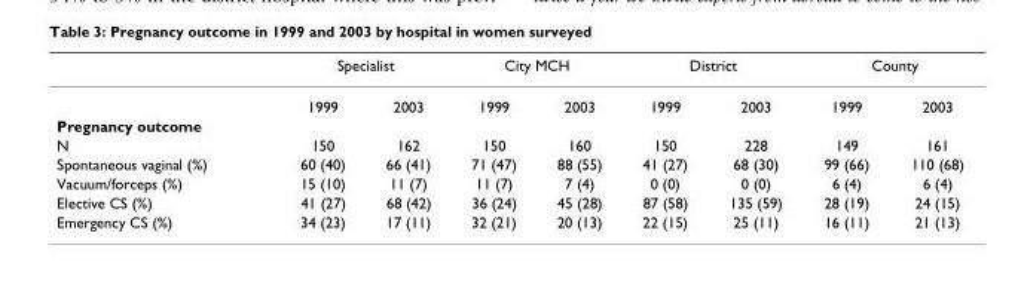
<table><thead><tr><td rowspan="2"></td><td colspan="2">Specialist</td><td colspan="2">City MCH</td><td colspan="2">District</td><td colspan="2">County</td></tr><tr><td>1999</td><td>2003</td><td>1999</td><td>2003</td><td>1999</td><td>2003</td><td>1999</td><td>2003</td></tr></thead><tbody><tr><td colspan="9">Pregnancy outcome</td></tr><tr><td>N</td><td>150</td><td>162</td><td>150</td><td>160</td><td>150</td><td>228</td><td>149</td><td>161</td></tr><tr><td>Spontaneous vaginal (%)</td><td>60 (40)</td><td>66 (41)</td><td>71 (47)</td><td>88 (55)</td><td>41 (27)</td><td>68 (30)</td><td>99 (66)</td><td>110 (68)</td></tr><tr><td>Vacuum/forceps (%)</td><td>15 (10)</td><td>11 (7)</td><td>11 (7)</td><td>7 (4)</td><td>0 (0)</td><td>0 (0)</td><td>6 (4)</td><td>6 (4)</td></tr><tr><td>Elective CS (%)</td><td>41 (27)</td><td>68 (42)</td><td>36 (24)</td><td>45 (28)</td><td>87 (58)</td><td>135 (59)</td><td>28 (19)</td><td>24 (15)</td></tr><tr><td>Emergency CS (%)</td><td>34 (23)</td><td>17 (11)</td><td>32 (21)</td><td>20 (13)</td><td>22 (15)</td><td>25 (11)</td><td>16 (11)</td><td>21 (13)</td></tr></tbody></table>